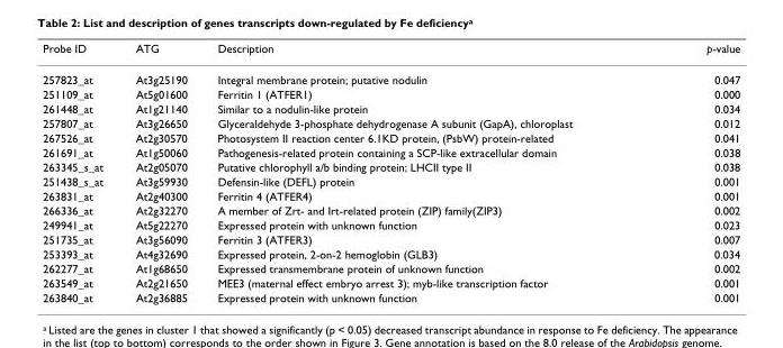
<table><thead><tr><td>Probe ID</td><td>ATG</td><td>Description</td><td>p-value</td></tr></thead><tbody><tr><td>257823_at</td><td>At3g25190</td><td>Integral membrane protein; putative nodulin</td><td>0.047</td></tr><tr><td>251109_at</td><td>At5g01600</td><td>Ferritin 1 (ATFER1)</td><td>0.000</td></tr><tr><td>261448_at</td><td>At1g21140</td><td>Similar to a nodulin-like protein</td><td>0.034</td></tr><tr><td>257807_at</td><td>At3g26650</td><td>Glyceraldehyde 3-phosphate dehydrogenase A subunit (GapA), chloroplast</td><td>0.012</td></tr><tr><td>267526_at</td><td>At2g30570</td><td>Photosystem II reaction center 6.1KD protein, (PsbW) protein-related</td><td>0.041</td></tr><tr><td>261691_at</td><td>At1g50060</td><td>Pathogenesis-related protein containing a SCP-like extracellular domain</td><td>0.038</td></tr><tr><td>263345_s_at</td><td>At2g05070</td><td>Putative chlorophyll a/b binding protein; LHCII type II</td><td>0.038</td></tr><tr><td>251438_s_at</td><td>At3g59930</td><td>Defensin-like (DEFL) protein</td><td>0.001</td></tr><tr><td>263831_at</td><td>At2g40300</td><td>Ferritin 4 (ATFER4)</td><td>0.001</td></tr><tr><td>266336_at</td><td>At2g32270</td><td>A member of Zrt- and Irt-related protein (ZIP) family(ZIP3)</td><td>0.002</td></tr><tr><td>249941_at</td><td>At5g22270</td><td>Expressed protein with unknown function</td><td>0.023</td></tr><tr><td>251735_at</td><td>At3g56090</td><td>Ferritin 3 (ATFER3)</td><td>0.007</td></tr><tr><td>253393_at</td><td>At4g32690</td><td>Expressed protein, 2-on-2 hemoglobin (GLB3)</td><td>0.034</td></tr><tr><td>262277_at</td><td>At1g68650</td><td>Expressed transmembrane protein of unknown function</td><td>0.002</td></tr><tr><td>263549_at</td><td>At2g21650</td><td>MEE3 (maternal effect embryo arrest 3); myb-like transcription factor</td><td>0.001</td></tr><tr><td>263840_at</td><td>At2g36885</td><td>Expressed protein with unknown function</td><td>0.001</td></tr></tbody></table>